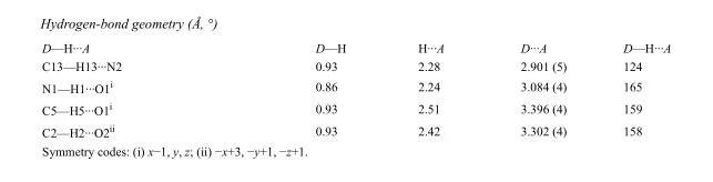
<table><tbody><tr><td>D—H···A</td><td>D—H</td><td>H···A</td><td>D···A</td><td>D—H···A</td></tr><tr><td>C13—H13···N2</td><td>0.93</td><td>2.28</td><td>2.901 (5)</td><td>124</td></tr><tr><td>N1—H1···O1<sup>i</sup></td><td>0.86</td><td>2.24</td><td>3.084 (4)</td><td>165</td></tr><tr><td>C5—H5···O1<sup>i</sup></td><td>0.93</td><td>2.51</td><td>3.396 (4)</td><td>159</td></tr><tr><td>C2—H2···O2<sup>ii</sup></td><td>0.93</td><td>2.42</td><td>3.302 (4)</td><td>158</td></tr></tbody></table>